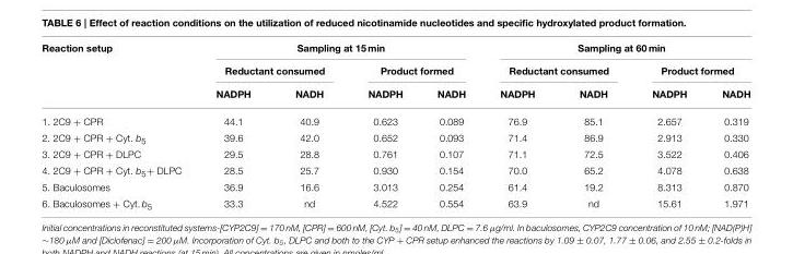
<table><thead><tr><td rowspan="3">Reaction setup</td><td colspan="4">Sampling at 15 min</td><td colspan="4">Sampling at 60 min</td></tr><tr><td colspan="2">Reductant consumed</td><td colspan="2">Product formed</td><td colspan="2">Reductant consumed</td><td colspan="2">Product formed</td></tr><tr><td>NADPH</td><td>NADH</td><td>NADPH</td><td>NADH</td><td>NADPH</td><td>NADH</td><td>NADPH</td><td>NADH</td></tr></thead><tbody><tr><td>1. 2C9 + CPR</td><td>44.1</td><td>40.9</td><td>0.623</td><td>0.089</td><td>76.9</td><td>85.1</td><td>2.657</td><td>0.319</td></tr><tr><td>2. 2C9 + CPR + Cyt. b<sub>5</sub></td><td>39.6</td><td>42.0</td><td>0.652</td><td>0.093</td><td>71.4</td><td>86.9</td><td>2.913</td><td>0.330</td></tr><tr><td>3. 2C9 + CPR + DLPC</td><td>29.5</td><td>28.8</td><td>0.761</td><td>0.107</td><td>71.1</td><td>72.5</td><td>3.522</td><td>0.406</td></tr><tr><td>4. 2C9 + CPR + Cyt. b<sub>5</sub>+ DLPC</td><td>28.5</td><td>25.7</td><td>0.930</td><td>0.154</td><td>70.0</td><td>65.2</td><td>4.078</td><td>0.638</td></tr><tr><td>5. Baculosomes</td><td>36.9</td><td>16.6</td><td>3.013</td><td>0.254</td><td>61.4</td><td>19.2</td><td>8.313</td><td>0.870</td></tr><tr><td>6. Baculosomes + Cyt. b<sub>5</sub></td><td>33.3</td><td>nd</td><td>4.522</td><td>0.554</td><td>63.9</td><td>nd</td><td>15.61</td><td>1.971</td></tr></tbody></table>